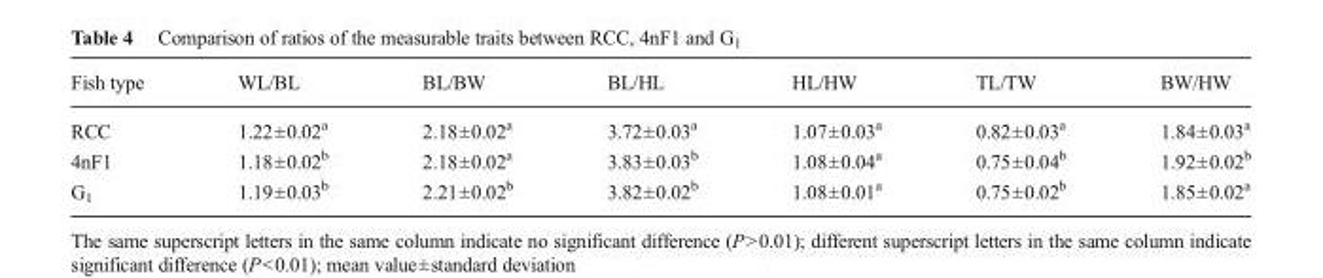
<table><thead><tr><td>Fish type</td><td>WL/BL</td><td>BL/BW</td><td>BL/HL</td><td>HL/HW</td><td>TL/TW</td><td>BW/HW</td></tr></thead><tbody><tr><td>RCC</td><td>1.22±0.02<sup>a</sup></td><td>2.18±0.02<sup>a</sup></td><td>3.72±0.03<sup>a</sup></td><td>1.07±0.03<sup>a</sup></td><td>0.82±0.03<sup>a</sup></td><td>1.84±0.03<sup>a</sup></td></tr><tr><td>4nF1</td><td>1.18±0.02<sup>b</sup></td><td>2.18±0.02<sup>a</sup></td><td>3.83±0.03<sup>b</sup></td><td>1.08±0.04<sup>a</sup></td><td>0.75±0.04<sup>b</sup></td><td>1.92±0.02<sup>b</sup></td></tr><tr><td>G<sub>1</sub></td><td>1.19±0.03<sup>b</sup></td><td>2.21±0.02<sup>b</sup></td><td>3.82±0.02<sup>b</sup></td><td>1.08±0.01<sup>a</sup></td><td>0.75±0.02<sup>b</sup></td><td>1.85±0.02<sup>a</sup></td></tr></tbody></table>